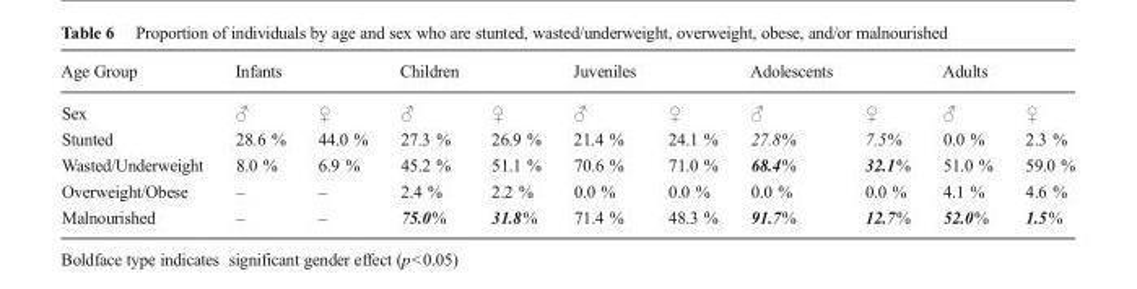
<table><thead><tr><td>Age Group</td><td>Infants</td><td></td><td>Children</td><td></td><td>Juveniles</td><td></td><td>Adolescents</td><td></td><td>Adults</td><td></td></tr></thead><tbody><tr><td>Sex</td><td>♂</td><td>♀</td><td>♂</td><td>♀</td><td>♂</td><td>♀</td><td>♂</td><td>♀</td><td>♂</td><td>♀</td></tr><tr><td>Stunted</td><td>28.6 %</td><td>44.0 %</td><td>27.3 %</td><td>26.9 %</td><td>21.4 %</td><td>24.1 %</td><td>27.8%</td><td>7.5%</td><td>0.0 %</td><td>2.3 %</td></tr><tr><td>Wasted/Underweight</td><td>8.0 %</td><td>6.9 %</td><td>45.2 %</td><td>51.1 %</td><td>70.6 %</td><td>71.0 %</td><td>68.4%</td><td>32.1%</td><td>51.0 %</td><td>59.0 %</td></tr><tr><td>Overweight/Obese</td><td>–</td><td>–</td><td>2.4 %</td><td>2.2 %</td><td>0.0 %</td><td>0.0 %</td><td>0.0 %</td><td>0.0 %</td><td>4.1 %</td><td>4.6 %</td></tr><tr><td>Malnourished</td><td>–</td><td>–</td><td>75.0%</td><td>31.8%</td><td>71.4 %</td><td>48.3 %</td><td>91.7%</td><td>12.7%</td><td>52.0%</td><td>1.5%</td></tr></tbody></table>